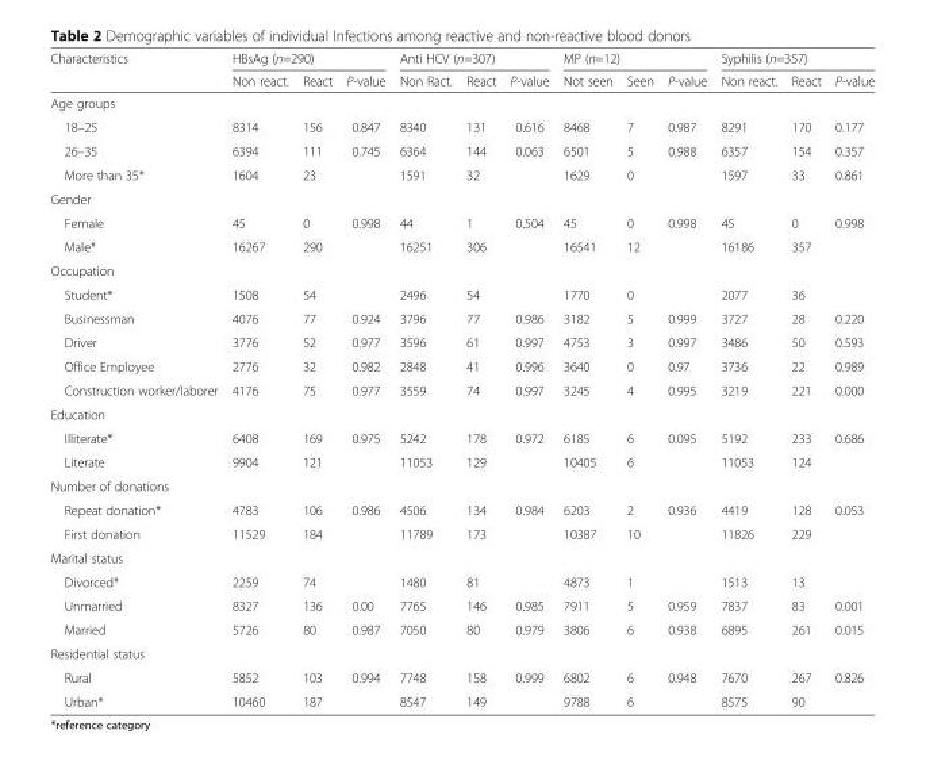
<table><thead><tr><td rowspan="2">Characteristics</td><td colspan="3">HBsAg (n=290)</td><td colspan="3">Anti HCV (n=307)</td><td colspan="3">MP (n=12)</td><td colspan="3">Syphilis (n=357)</td></tr><tr><td>Non react.</td><td>React</td><td>P-value</td><td>Non Ract.</td><td>React</td><td>P-value</td><td>Not seen</td><td>Seen</td><td>P-value</td><td>Non react.</td><td>React</td><td>P-value</td></tr></thead><tbody><tr><td colspan="13">Age groups</td></tr><tr><td>18–25</td><td>8314</td><td>156</td><td>0.847</td><td>8340</td><td>131</td><td>0.616</td><td>8468</td><td>7</td><td>0.987</td><td>8291</td><td>170</td><td>0.177</td></tr><tr><td>26–35</td><td>6394</td><td>111</td><td>0.745</td><td>6364</td><td>144</td><td>0.063</td><td>6501</td><td>5</td><td>0.988</td><td>6357</td><td>154</td><td>0.357</td></tr><tr><td>More than 35*</td><td>1604</td><td>23</td><td></td><td>1591</td><td>32</td><td></td><td>1629</td><td>0</td><td></td><td>1597</td><td>33</td><td>0.861</td></tr><tr><td colspan="13">Gender</td></tr><tr><td>Female</td><td>45</td><td>0</td><td rowspan="2">0.998</td><td>44</td><td>1</td><td rowspan="2">0.504</td><td>45</td><td>0</td><td rowspan="2">0.998</td><td>45</td><td>0</td><td rowspan="2">0.998</td></tr><tr><td>Male*</td><td>16267</td><td>290</td><td>16251</td><td>306</td><td>16541</td><td>12</td><td>16186</td><td>357</td></tr><tr><td colspan="13">Occupation</td></tr><tr><td>Student*</td><td>1508</td><td>54</td><td></td><td>2496</td><td>54</td><td></td><td>1770</td><td>0</td><td></td><td>2077</td><td>36</td><td></td></tr><tr><td>Businessman</td><td>4076</td><td>77</td><td>0.924</td><td>3796</td><td>77</td><td>0.986</td><td>3182</td><td>5</td><td>0.999</td><td>3727</td><td>28</td><td>0.220</td></tr><tr><td>Driver</td><td>3776</td><td>52</td><td>0.977</td><td>3596</td><td>61</td><td>0.997</td><td>4753</td><td>3</td><td>0.997</td><td>3486</td><td>50</td><td>0.593</td></tr><tr><td>Office Employee</td><td>2776</td><td>32</td><td>0.982</td><td>2848</td><td>41</td><td>0.996</td><td>3640</td><td>0</td><td>0.97</td><td>3736</td><td>22</td><td>0.989</td></tr><tr><td>Construction worker/laborer</td><td>4176</td><td>75</td><td>0.977</td><td>3559</td><td>74</td><td>0.997</td><td>3245</td><td>4</td><td>0.995</td><td>3219</td><td>221</td><td>0.000</td></tr><tr><td colspan="13">Education</td></tr><tr><td>Illiterate*</td><td>6408</td><td>169</td><td rowspan="2">0.975</td><td>5242</td><td>178</td><td rowspan="2">0.972</td><td>6185</td><td>6</td><td rowspan="2">0.095</td><td>5192</td><td>233</td><td rowspan="2">0.686</td></tr><tr><td>Literate</td><td>9904</td><td>121</td><td>11053</td><td>129</td><td>10405</td><td>6</td><td>11053</td><td>124</td></tr><tr><td colspan="13">Number of donations</td></tr><tr><td>Repeat donation*</td><td>4783</td><td>106</td><td rowspan="2">0.986</td><td>4506</td><td>134</td><td rowspan="2">0.984</td><td>6203</td><td>2</td><td rowspan="2">0.936</td><td>4419</td><td>128</td><td rowspan="2">0.053</td></tr><tr><td>First donation</td><td>11529</td><td>184</td><td>11789</td><td>173</td><td>10387</td><td>10</td><td>11826</td><td>229</td></tr><tr><td colspan="13">Marital status</td></tr><tr><td>Divorced*</td><td>2259</td><td>74</td><td></td><td>1480</td><td>81</td><td></td><td>4873</td><td>1</td><td></td><td>1513</td><td>13</td><td></td></tr><tr><td>Unmarried</td><td>8327</td><td>136</td><td>0.00</td><td>7765</td><td>146</td><td>0.985</td><td>7911</td><td>5</td><td>0.959</td><td>7837</td><td>83</td><td>0.001</td></tr><tr><td>Married</td><td>5726</td><td>80</td><td>0.987</td><td>7050</td><td>80</td><td>0.979</td><td>3806</td><td>6</td><td>0.938</td><td>6895</td><td>261</td><td>0.015</td></tr><tr><td colspan="13">Residential status</td></tr><tr><td>Rural</td><td>5852</td><td>103</td><td rowspan="2">0.994</td><td>7748</td><td>158</td><td rowspan="2">0.999</td><td>6802</td><td>6</td><td rowspan="2">0.948</td><td>7670</td><td>267</td><td rowspan="2">0.826</td></tr><tr><td>Urban*</td><td>10460</td><td>187</td><td>8547</td><td>149</td><td>9788</td><td>6</td><td>8575</td><td>90</td></tr></tbody></table>